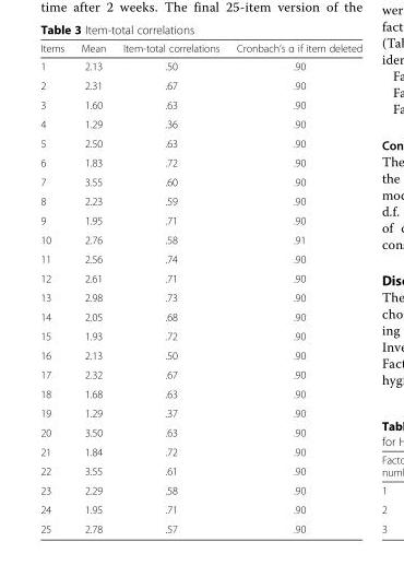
<table><thead><tr><td>Items</td><td>Mean</td><td>Item-total correlations</td><td>Cronbach’s α if item deleted</td></tr></thead><tbody><tr><td>1</td><td>2.13</td><td>.50</td><td>.90</td></tr><tr><td>2</td><td>2.31</td><td>.67</td><td>.90</td></tr><tr><td>3</td><td>1.60</td><td>.63</td><td>.90</td></tr><tr><td>4</td><td>1.29</td><td>.36</td><td>.90</td></tr><tr><td>5</td><td>2.50</td><td>.63</td><td>.90</td></tr><tr><td>6</td><td>1.83</td><td>.72</td><td>.90</td></tr><tr><td>7</td><td>3.55</td><td>.60</td><td>.90</td></tr><tr><td>8</td><td>2.23</td><td>.59</td><td>.90</td></tr><tr><td>9</td><td>1.95</td><td>.71</td><td>.90</td></tr><tr><td>10</td><td>2.76</td><td>.58</td><td>.91</td></tr><tr><td>11</td><td>2.56</td><td>.74</td><td>.90</td></tr><tr><td>12</td><td>2.61</td><td>.71</td><td>.90</td></tr><tr><td>13</td><td>2.98</td><td>.73</td><td>.90</td></tr><tr><td>14</td><td>2.05</td><td>.68</td><td>.90</td></tr><tr><td>15</td><td>1.93</td><td>.72</td><td>.90</td></tr><tr><td>16</td><td>2.13</td><td>.50</td><td>.90</td></tr><tr><td>17</td><td>2.32</td><td>.67</td><td>.90</td></tr><tr><td>18</td><td>1.68</td><td>.63</td><td>.90</td></tr><tr><td>19</td><td>1.29</td><td>.37</td><td>.90</td></tr><tr><td>20</td><td>3.50</td><td>.63</td><td>.90</td></tr><tr><td>21</td><td>1.84</td><td>.72</td><td>.90</td></tr><tr><td>22</td><td>3.55</td><td>.61</td><td>.90</td></tr><tr><td>23</td><td>2.29</td><td>.58</td><td>.90</td></tr><tr><td>24</td><td>1.95</td><td>.71</td><td>.90</td></tr><tr><td>25</td><td>2.78</td><td>.57</td><td>.90</td></tr></tbody></table>